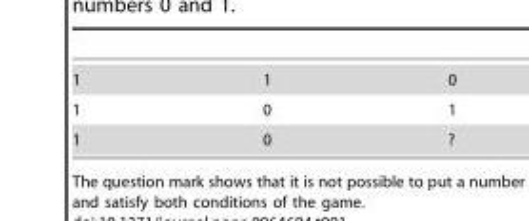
<table><tbody><tr><td>1</td><td>1</td><td>0</td></tr><tr><td>1</td><td>0</td><td>1</td></tr><tr><td>1</td><td>0</td><td>?</td></tr></tbody></table>